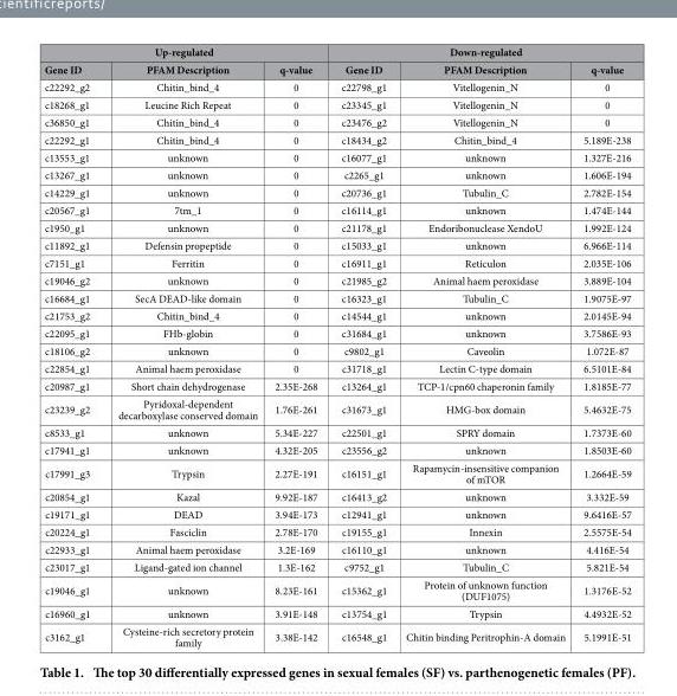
<table><thead><tr><td colspan="3">Up-regulated</td><td colspan="3">Down-regulated</td></tr><tr><td>Gene ID</td><td>PFAM Description</td><td>q-value</td><td>Gene ID</td><td>PFAM Description</td><td>q-value</td></tr></thead><tbody><tr><td>c22292_g2</td><td>Chitin_bind_4</td><td>0</td><td>c22798_g1</td><td>Vitellogenin_N</td><td>0</td></tr><tr><td>c18268_g1</td><td>Leucine Rich Repeat</td><td>0</td><td>c23345_g1</td><td>Vitellogenin_N</td><td>0</td></tr><tr><td>c36850_g1</td><td>Chitin_bind_4</td><td>0</td><td>c23476_g2</td><td>Vitellogenin_N</td><td>0</td></tr><tr><td>c22292_g1</td><td>Chitin_bind_4</td><td>0</td><td>c18434_g2</td><td>Chitin_bind_4</td><td>5.189E-238</td></tr><tr><td>c13553_g1</td><td>unknown</td><td>0</td><td>c16077_g1</td><td>unknown</td><td>1.327E-216</td></tr><tr><td>c13267_g1</td><td>unknown</td><td>0</td><td>c2265_g1</td><td>unknown</td><td>1.606E-194</td></tr><tr><td>c14229_g1</td><td>unknown</td><td>0</td><td>c20736_g1</td><td>Tubulin_C</td><td>2.782E-154</td></tr><tr><td>c20567_g1</td><td>7tm_1</td><td>0</td><td>c16114_g1</td><td>unknown</td><td>1.474E-144</td></tr><tr><td>c1950_g1</td><td>unknown</td><td>0</td><td>c21178_g1</td><td>Endoribonuclease XendoU</td><td>1.992E-124</td></tr><tr><td>c11892_g1</td><td>Defensin propeptide</td><td>0</td><td>c15033_g1</td><td>unknown</td><td>6.966E-114</td></tr><tr><td>c7151_g1</td><td>Ferritin</td><td>0</td><td>c16911_g1</td><td>Reticulon</td><td>2.035E-106</td></tr><tr><td>c19046_g2</td><td>unknown</td><td>0</td><td>c21985_g2</td><td>Animal haem peroxidase</td><td>3.889E-104</td></tr><tr><td>c16684_g1</td><td>SecA DEAD-like domain</td><td>0</td><td>c16323_g1</td><td>Tubulin_C</td><td>1.9075E-97</td></tr><tr><td>c21753_g2</td><td>Chitin_bind_4</td><td>0</td><td>c14544_g1</td><td>unknown</td><td>2.0145E-94</td></tr><tr><td>c22095_g1</td><td>FHb-globin</td><td>0</td><td>c31684_g1</td><td>unknown</td><td>3.7586E-93</td></tr><tr><td>c18106_g2</td><td>unknown</td><td>0</td><td>c9802_g1</td><td>Caveolin</td><td>1.072E-87</td></tr><tr><td>c22854_g1</td><td>Animal haem peroxidase</td><td>0</td><td>c31718_g1</td><td>Lectin C-type domain</td><td>6.5101E-84</td></tr><tr><td>c20987_g1</td><td>Short chain dehydrogenase</td><td>2.35E-268</td><td>c13264_g1</td><td>TCP-1/cpn60 chaperonin family</td><td>1.8185E-77</td></tr><tr><td>c23239_g2</td><td>Pyridoxal-dependent decarboxylase conserved domain</td><td>1.76E-261</td><td>c31673_g1</td><td>HMG-box domain</td><td>5.4632E-75</td></tr><tr><td>c8533_g1</td><td>unknown</td><td>5.34E-227</td><td>c22501_g1</td><td>SPRY domain</td><td>1.7373E-60</td></tr><tr><td>c17941_g1</td><td>unknown</td><td>4.32E-205</td><td>c23556_g2</td><td>unknown</td><td>1.8503E-60</td></tr><tr><td>c17991_g3</td><td>Trypsin</td><td>2.27E-191</td><td>c16151_g1</td><td>Rapamycin-insensitive companion of mTOR</td><td>1.2664E-59</td></tr><tr><td>c20854_g1</td><td>Kazal</td><td>9.92E-187</td><td>c16413_g2</td><td>unknown</td><td>3.332E-59</td></tr><tr><td>c19171_g1</td><td>DEAD</td><td>3.94E-173</td><td>c12941_g1</td><td>unknown</td><td>9.6416E-57</td></tr><tr><td>c20224_g1</td><td>Fasciclin</td><td>2.78E-170</td><td>c19155_g1</td><td>Innexin</td><td>2.5575E-54</td></tr><tr><td>c22933_g1</td><td>Animal haem peroxidase</td><td>3.2E-169</td><td>c16110_g1</td><td>unknown</td><td>4.416E-54</td></tr><tr><td>c23017_g1</td><td>Ligand-gated ion channel</td><td>1.3E-162</td><td>c9752_g1</td><td>Tubulin_C</td><td>5.821E-54</td></tr><tr><td>c19046_g1</td><td>unknown</td><td>8.23E-161</td><td>c15362_g1</td><td>Protein of unknown function (DUF1075)</td><td>1.3176E-52</td></tr><tr><td>c16960_g1</td><td>unknown</td><td>3.91E-148</td><td>c13754_g1</td><td>Trypsin</td><td>4.4932E-52</td></tr><tr><td>c3162_g1</td><td>Cysteine-rich secretory protein family</td><td>3.38E-142</td><td>c16548_g1</td><td>Chitin binding Peritrophin-A domain</td><td>5.1991E-51</td></tr></tbody></table>